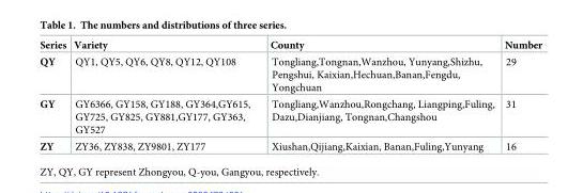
<table><thead><tr><td>Series</td><td>Variety</td><td>County</td><td>Number</td></tr></thead><tbody><tr><td>QY</td><td>QY1, QY5, QY6, QY8, QY12, QY108</td><td>Tongliang,Tongnan,Wanzhou, Yunyang,Shizhu, Pengshui, Kaixian,Hechuan,Banan,Fengdu, Yongchuan</td><td>29</td></tr><tr><td>GY</td><td>GY6366, GY158, GY188, GY364,GY615, GY725, GY825, GY881,GY177, GY363, GY527</td><td>Tongliang,Wanzhou,Rongchang, Liangping,Fuling, Dazu,Dianjiang, Tongnan,Changshou</td><td>31</td></tr><tr><td>ZY</td><td>ZY36, ZY838, ZY9801, ZY177</td><td>Xiushan,Qijiang,Kaixian, Banan,Fuling,Yunyang</td><td>16</td></tr></tbody></table>